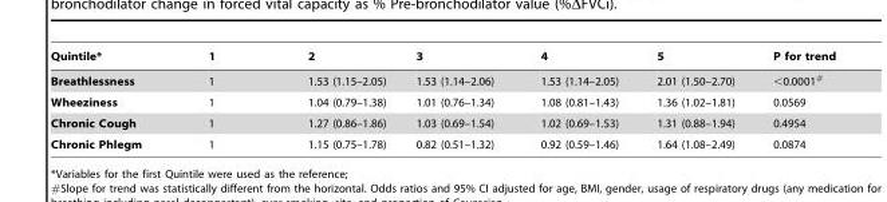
<table><thead><tr><td>Quintile*</td><td>1</td><td>2</td><td>3</td><td>4</td><td>5</td><td>P for trend</td></tr></thead><tbody><tr><td>Breathlessness</td><td>1</td><td>1.53 (1.15–2.05)</td><td>1.53 (1.14–2.06)</td><td>1.53 (1.14–2.05)</td><td>2.01 (1.50–2.70)</td><td>&lt;0.0001<sup>#</sup></td></tr><tr><td>Wheeziness</td><td>1</td><td>1.04 (0.79–1.38)</td><td>1.01 (0.76–1.34)</td><td>1.08 (0.81–1.43)</td><td>1.36 (1.02–1.81)</td><td>0.0569</td></tr><tr><td>Chronic Cough</td><td>1</td><td>1.27 (0.86–1.86)</td><td>1.03 (0.69–1.54)</td><td>1.02 (0.69–1.53)</td><td>1.31 (0.88–1.94)</td><td>0.4954</td></tr><tr><td>Chronic Phlegm</td><td>1</td><td>1.15 (0.75–1.78)</td><td>0.82 (0.51–1.32)</td><td>0.92 (0.59–1.46)</td><td>1.64 (1.08–2.49)</td><td>0.0874</td></tr></tbody></table>